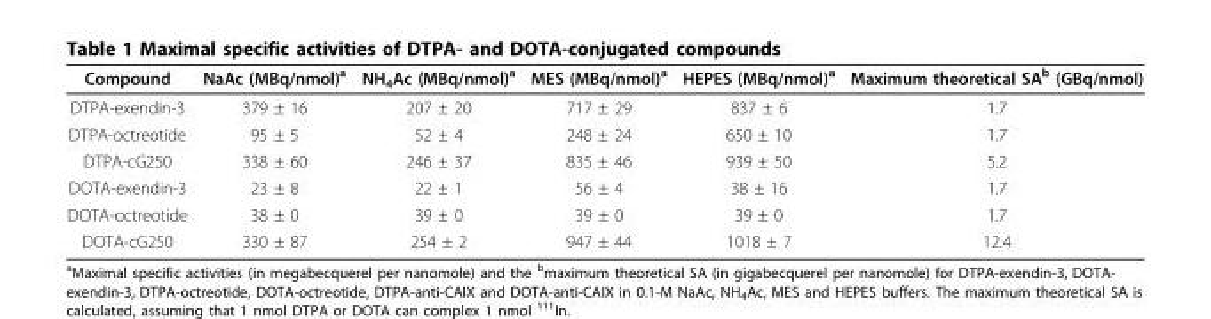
<table><thead><tr><td>Compound</td><td>NaAc (MBq/nmol)<sup>a</sup></td><td>NH<sub>4</sub>Ac (MBq/nmol)<sup>a</sup></td><td>MES (MBq/nmol)<sup>a</sup></td><td>HEPES (MBq/nmol)<sup>a</sup></td><td>Maximum theoretical SA<sup>b</sup> (GBq/nmol)</td></tr></thead><tbody><tr><td>DTPA-exendin-3</td><td>379 ± 16</td><td>207 ± 20</td><td>717 ± 29</td><td>837 ± 6</td><td>1.7</td></tr><tr><td>DTPA-octreotide</td><td>95 ± 5</td><td>52 ± 4</td><td>248 ± 24</td><td>650 ± 10</td><td>1.7</td></tr><tr><td>DTPA-cG250</td><td>338 ± 60</td><td>246 ± 37</td><td>835 ± 46</td><td>939 ± 50</td><td>5.2</td></tr><tr><td>DOTA-exendin-3</td><td>23 ± 8</td><td>22 ± 1</td><td>56 ± 4</td><td>38 ± 16</td><td>1.7</td></tr><tr><td>DOTA-octreotide</td><td>38 ± 0</td><td>39 ± 0</td><td>39 ± 0</td><td>39 ± 0</td><td>1.7</td></tr><tr><td>DOTA-cG250</td><td>330 ± 87</td><td>254 ± 2</td><td>947 ± 44</td><td>1018 ± 7</td><td>12.4</td></tr></tbody></table>